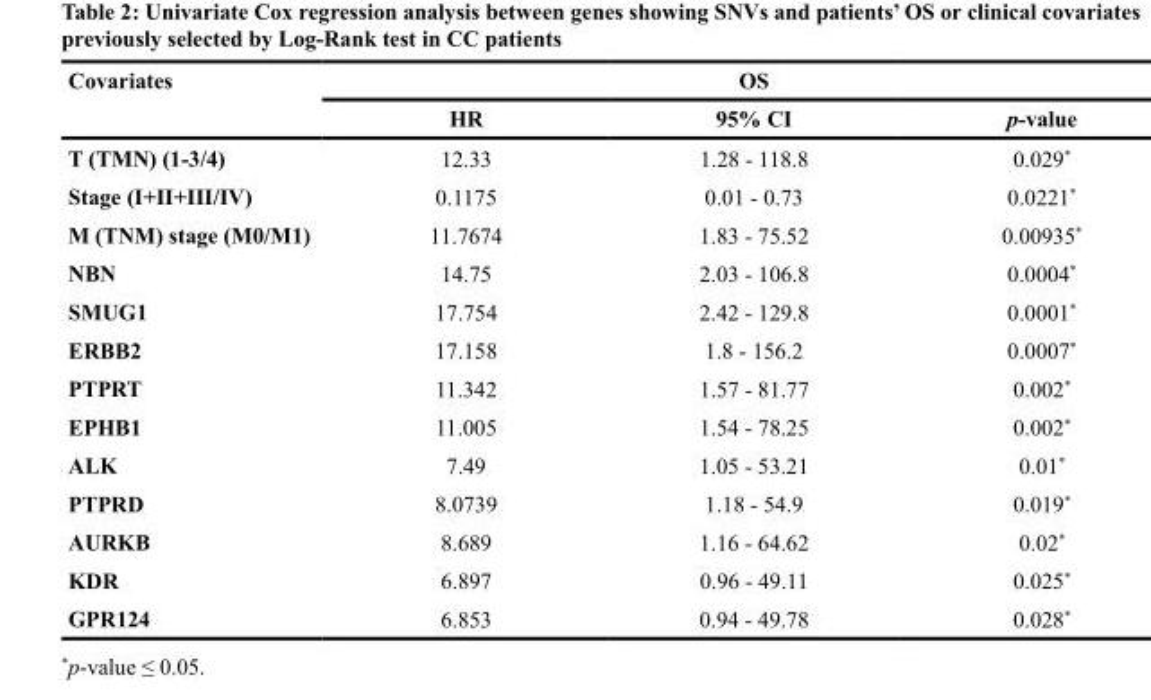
<table><thead><tr><td rowspan="2">Covariates</td><td colspan="3">OS</td></tr><tr><td>HR</td><td>95% CI</td><td>p-value</td></tr></thead><tbody><tr><td>T (TMN) (1-3/4)</td><td>12.33</td><td>1.28 - 118.8</td><td>0.029*</td></tr><tr><td>Stage (I+II+III/IV)</td><td>0.1175</td><td>0.01 - 0.73</td><td>0.0221*</td></tr><tr><td>M (TNM) stage (M0/M1)</td><td>11.7674</td><td>1.83 - 75.52</td><td>0.00935*</td></tr><tr><td>NBN</td><td>14.75</td><td>2.03 - 106.8</td><td>0.0004*</td></tr><tr><td>SMUG1</td><td>17.754</td><td>2.42 - 129.8</td><td>0.0001*</td></tr><tr><td>ERBB2</td><td>17.158</td><td>1.8 - 156.2</td><td>0.0007*</td></tr><tr><td>PTPRT</td><td>11.342</td><td>1.57 - 81.77</td><td>0.002*</td></tr><tr><td>EPHB1</td><td>11.005</td><td>1.54 - 78.25</td><td>0.002*</td></tr><tr><td>ALK</td><td>7.49</td><td>1.05 - 53.21</td><td>0.01*</td></tr><tr><td>PTPRD</td><td>8.0739</td><td>1.18 - 54.9</td><td>0.019*</td></tr><tr><td>AURKB</td><td>8.689</td><td>1.16 - 64.62</td><td>0.02*</td></tr><tr><td>KDR</td><td>6.897</td><td>0.96 - 49.11</td><td>0.025*</td></tr><tr><td>GPR124</td><td>6.853</td><td>0.94 - 49.78</td><td>0.028*</td></tr></tbody></table>